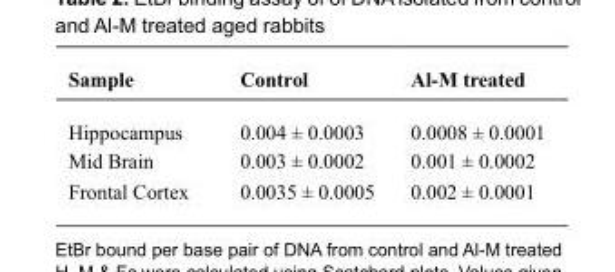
<table><thead><tr><td>Sample</td><td>Control</td><td>Al-M treated</td></tr></thead><tbody><tr><td>Hippocampus</td><td>0.004 ± 0.0003</td><td>0.0008 ± 0.0001</td></tr><tr><td>Mid Brain</td><td>0.003 ± 0.0002</td><td>0.001 ± 0.0002</td></tr><tr><td>Frontal Cortex</td><td>0.0035 ± 0.0005</td><td>0.002 ± 0.0001</td></tr></tbody></table>